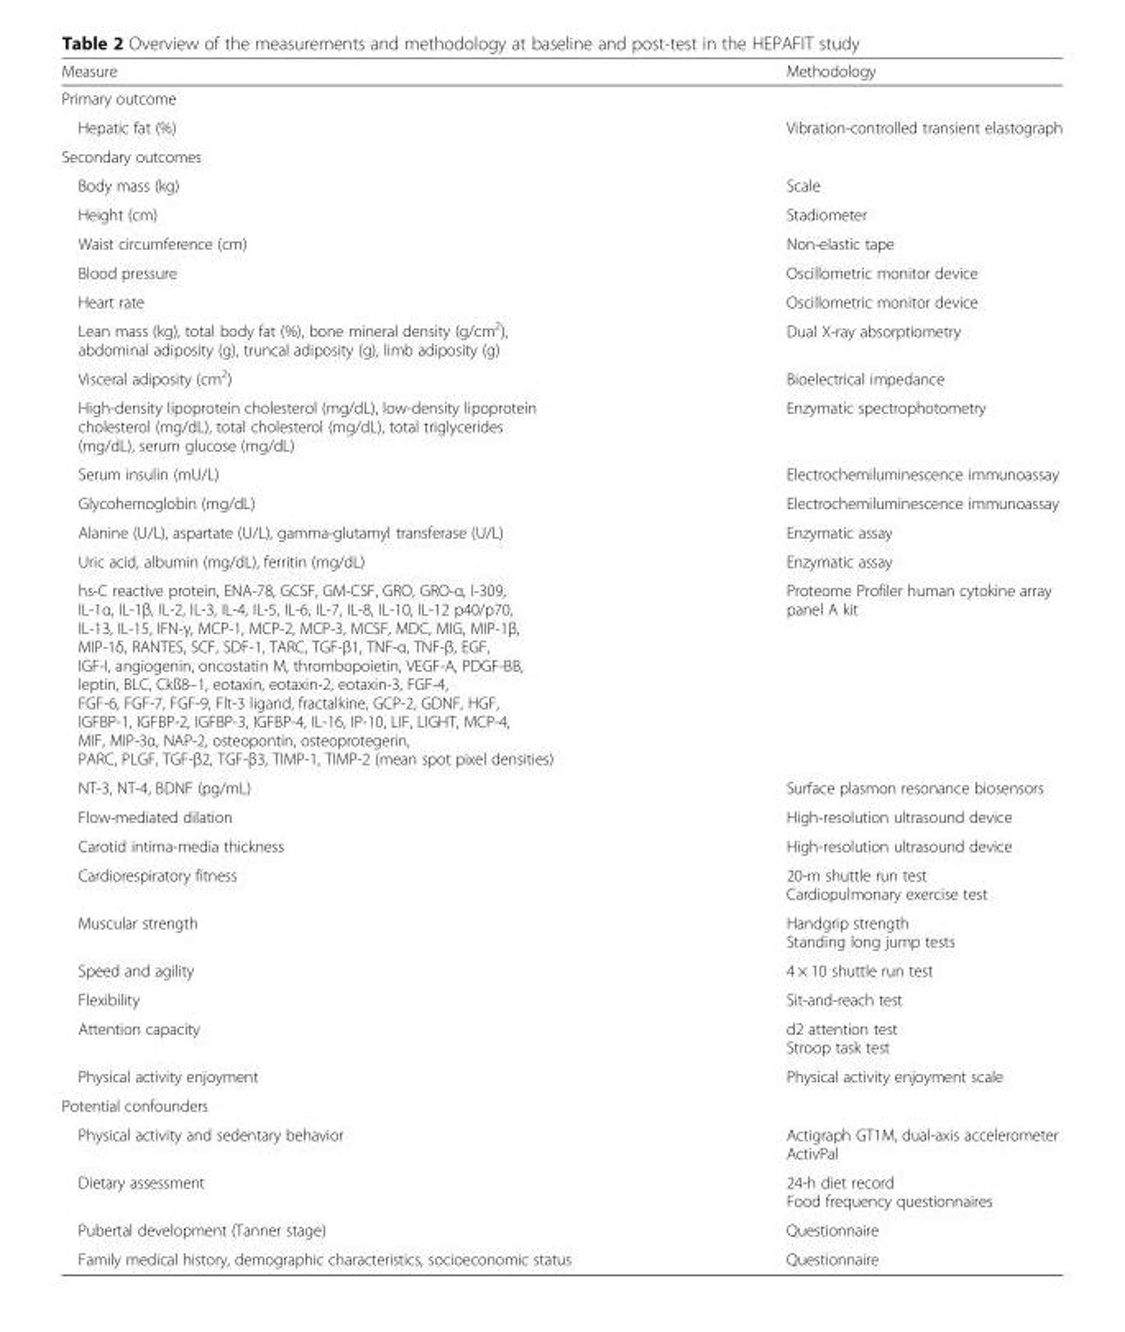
<table><thead><tr><td>Measure</td><td>Methodology</td></tr></thead><tbody><tr><td colspan="2">Primary outcome</td></tr><tr><td>Hepatic fat (%)</td><td>Vibration-controlled transient elastograph</td></tr><tr><td colspan="2">Secondary outcomes</td></tr><tr><td>Body mass (kg)</td><td>Scale</td></tr><tr><td>Height (cm)</td><td>Stadiometer</td></tr><tr><td>Waist circumference (cm)</td><td>Non-elastic tape</td></tr><tr><td>Blood pressure</td><td>Oscillometric monitor device</td></tr><tr><td>Heart rate</td><td>Oscillometric monitor device</td></tr><tr><td>Lean mass (kg), total body fat (%), bone mineral density (g/cm<sup>2</sup>), abdominal adiposity (g), truncal adiposity (g), limb adiposity (g)</td><td>Dual X-ray absorptiometry</td></tr><tr><td>Visceral adiposity (cm<sup>2</sup>)</td><td>Bioelectrical impedance</td></tr><tr><td>High-density lipoprotein cholesterol (mg/dL), low-density lipoprotein cholesterol (mg/dL), total cholesterol (mg/dL), total triglycerides (mg/dL), serum glucose (mg/dL)</td><td>Enzymatic spectrophotometry</td></tr><tr><td>Serum insulin (mU/L)</td><td>Electrochemiluminescence immunoassay</td></tr><tr><td>Glycohemoglobin (mg/dL)</td><td>Electrochemiluminescence immunoassay</td></tr><tr><td>Alanine (U/L), aspartate (U/L), gamma-glutamyl transferase (U/L)</td><td>Enzymatic assay</td></tr><tr><td>Uric acid, albumin (mg/dL), ferritin (mg/dL)</td><td>Enzymatic assay</td></tr><tr><td>hs-C reactive protein, ENA-78, GCSF, GM-CSF, GRO, GRO-α, I-309, IL-1α, IL-1β, IL-2, IL-3, IL-4, IL-5, IL-6, IL-7, IL-8, IL-10, IL-12 p40/p70, IL-13, IL-15, IFN-γ, MCP-1, MCP-2, MCP-3, MCSF, MDC, MIG, MIP-1β, MIP-1δ, RANTES, SCF, SDF-1, TARC, TGF-β1, TNF-α, TNF-β, EGF, IGF-I, angiogenin, oncostatin M, thrombopoietin, VEGF-A, PDGF-BB, leptin, BLC, Ckß8–1, eotaxin, eotaxin-2, eotaxin-3, FGF-4, FGF-6, FGF-7, FGF-9, Flt-3 ligand, fractalkine, GCP-2, GDNF, HGF, IGFBP-1, IGFBP-2, IGFBP-3, IGFBP-4, IL-16, IP-10, LIF, LIGHT, MCP-4, MIF, MIP-3α, NAP-2, osteopontin, osteoprotegerin, PARC, PLGF, TGF-β2, TGF-β3, TIMP-1, TIMP-2 (mean spot pixel densities)</td><td>Proteome Profiler human cytokine array panel A kit</td></tr><tr><td>NT-3, NT-4, BDNF (pg/mL)</td><td>Surface plasmon resonance biosensors</td></tr><tr><td>Flow-mediated dilation</td><td>High-resolution ultrasound device</td></tr><tr><td>Carotid intima-media thickness</td><td>High-resolution ultrasound device</td></tr><tr><td>Cardiorespiratory fitness</td><td>20-m shuttle run test Cardiopulmonary exercise test</td></tr><tr><td>Muscular strength</td><td>Handgrip strength Standing long jump tests</td></tr><tr><td>Speed and agility</td><td>4 × 10 shuttle run test</td></tr><tr><td>Flexibility</td><td>Sit-and-reach test</td></tr><tr><td>Attention capacity</td><td>d2 attention test Stroop task test</td></tr><tr><td>Physical activity enjoyment</td><td>Physical activity enjoyment scale</td></tr><tr><td colspan="2">Potential confounders</td></tr><tr><td>Physical activity and sedentary behavior</td><td>Actigraph GT1M, dual-axis accelerometer ActivPal</td></tr><tr><td>Dietary assessment</td><td>24-h diet record Food frequency questionnaires</td></tr><tr><td>Pubertal development (Tanner stage)</td><td>Questionnaire</td></tr><tr><td>Family medical history, demographic characteristics, socioeconomic status</td><td>Questionnaire</td></tr></tbody></table>